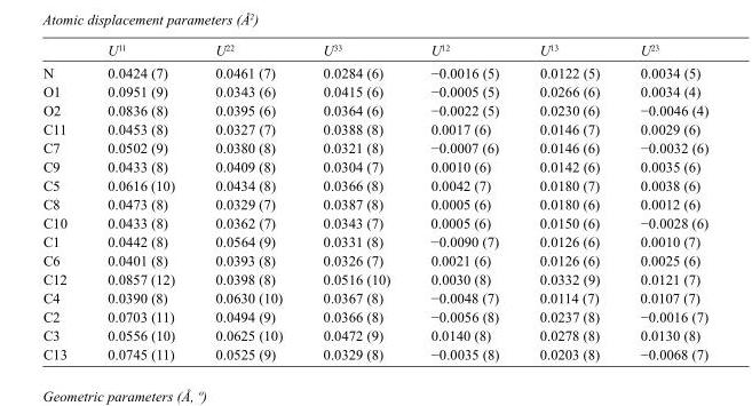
<table><thead><tr><td></td><td>U<sup>11</sup></td><td>U<sup>22</sup></td><td>U<sup>33</sup></td><td>U<sup>12</sup></td><td>U<sup>13</sup></td><td>U<sup>23</sup></td></tr></thead><tbody><tr><td>N</td><td>0.0424 (7)</td><td>0.0461 (7)</td><td>0.0284 (6)</td><td>−0.0016 (5)</td><td>0.0122 (5)</td><td>0.0034 (5)</td></tr><tr><td>O1</td><td>0.0951 (9)</td><td>0.0343 (6)</td><td>0.0415 (6)</td><td>−0.0005 (5)</td><td>0.0266 (6)</td><td>0.0034 (4)</td></tr><tr><td>O2</td><td>0.0836 (8)</td><td>0.0395 (6)</td><td>0.0364 (6)</td><td>−0.0022 (5)</td><td>0.0230 (6)</td><td>−0.0046 (4)</td></tr><tr><td>C11</td><td>0.0453 (8)</td><td>0.0327 (7)</td><td>0.0388 (8)</td><td>0.0017 (6)</td><td>0.0146 (7)</td><td>0.0029 (6)</td></tr><tr><td>C7</td><td>0.0502 (9)</td><td>0.0380 (8)</td><td>0.0321 (8)</td><td>−0.0007 (6)</td><td>0.0146 (6)</td><td>−0.0032 (6)</td></tr><tr><td>C9</td><td>0.0433 (8)</td><td>0.0409 (8)</td><td>0.0304 (7)</td><td>0.0010 (6)</td><td>0.0142 (6)</td><td>0.0035 (6)</td></tr><tr><td>C5</td><td>0.0616 (10)</td><td>0.0434 (8)</td><td>0.0366 (8)</td><td>0.0042 (7)</td><td>0.0180 (7)</td><td>0.0038 (6)</td></tr><tr><td>C8</td><td>0.0473 (8)</td><td>0.0329 (7)</td><td>0.0387 (8)</td><td>0.0005 (6)</td><td>0.0180 (6)</td><td>0.0012 (6)</td></tr><tr><td>C10</td><td>0.0433 (8)</td><td>0.0362 (7)</td><td>0.0343 (7)</td><td>0.0005 (6)</td><td>0.0150 (6)</td><td>−0.0028 (6)</td></tr><tr><td>C1</td><td>0.0442 (8)</td><td>0.0564 (9)</td><td>0.0331 (8)</td><td>−0.0090 (7)</td><td>0.0126 (6)</td><td>0.0010 (7)</td></tr><tr><td>C6</td><td>0.0401 (8)</td><td>0.0393 (8)</td><td>0.0326 (7)</td><td>0.0021 (6)</td><td>0.0126 (6)</td><td>0.0025 (6)</td></tr><tr><td>C12</td><td>0.0857 (12)</td><td>0.0398 (8)</td><td>0.0516 (10)</td><td>0.0030 (8)</td><td>0.0332 (9)</td><td>0.0121 (7)</td></tr><tr><td>C4</td><td>0.0390 (8)</td><td>0.0630 (10)</td><td>0.0367 (8)</td><td>−0.0048 (7)</td><td>0.0114 (7)</td><td>0.0107 (7)</td></tr><tr><td>C2</td><td>0.0703 (11)</td><td>0.0494 (9)</td><td>0.0366 (8)</td><td>−0.0056 (8)</td><td>0.0237 (8)</td><td>−0.0016 (7)</td></tr><tr><td>C3</td><td>0.0556 (10)</td><td>0.0625 (10)</td><td>0.0472 (9)</td><td>0.0140 (8)</td><td>0.0278 (8)</td><td>0.0130 (8)</td></tr><tr><td>C13</td><td>0.0745 (11)</td><td>0.0525 (9)</td><td>0.0329 (8)</td><td>−0.0035 (8)</td><td>0.0203 (8)</td><td>−0.0068 (7)</td></tr></tbody></table>